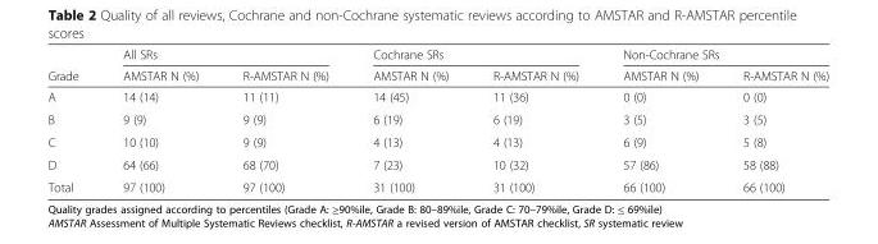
<table><thead><tr><td rowspan="2">Grade</td><td colspan="2">All SRs</td><td colspan="2">Cochrane SRs</td><td colspan="2">Non-Cochrane SRs</td></tr><tr><td>AMSTAR N (%)</td><td>R-AMSTAR N (%)</td><td>AMSTAR N (%)</td><td>R-AMSTAR N (%)</td><td>AMSTAR N (%)</td><td>R-AMSTAR N (%)</td></tr></thead><tbody><tr><td>A</td><td>14 (14)</td><td>11 (11)</td><td>14 (45)</td><td>11 (36)</td><td>0 (0)</td><td>0 (0)</td></tr><tr><td>B</td><td>9 (9)</td><td>9 (9)</td><td>6 (19)</td><td>6 (19)</td><td>3 (5)</td><td>3 (5)</td></tr><tr><td>C</td><td>10 (10)</td><td>9 (9)</td><td>4 (13)</td><td>4 (13)</td><td>6 (9)</td><td>5 (8)</td></tr><tr><td>D</td><td>64 (66)</td><td>68 (70)</td><td>7 (23)</td><td>10 (32)</td><td>57 (86)</td><td>58 (88)</td></tr><tr><td>Total</td><td>97 (100)</td><td>97 (100)</td><td>31 (100)</td><td>31 (100)</td><td>66 (100)</td><td>66 (100)</td></tr></tbody></table>